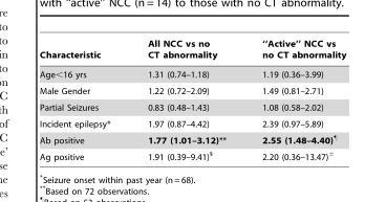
<table><thead><tr><td>Characteristic</td><td>All NCC vs no CT abnormality</td><td>‘‘Active’’ NCC vs no CT abnormality</td></tr></thead><tbody><tr><td>Age&lt;16 yrs</td><td>1.31 (0.74–1.18)</td><td>1.19 (0.36–3.99)</td></tr><tr><td>Male Gender</td><td>1.22 (0.72–2.09)</td><td>1.49 (0.81–2.71)</td></tr><tr><td>Partial Seizures</td><td>0.83 (0.48–1.43)</td><td>1.08 (0.58–2.02)</td></tr><tr><td>Incident epilepsy*</td><td>1.97 (0.87–4.42)</td><td>2.39 (0.97–5.89)</td></tr><tr><td>Ab positive</td><td>1.77 (1.01–3.12)**</td><td>2.55 (1.48–4.40)¶</td></tr><tr><td>Ag positive</td><td>1.91 (0.39–9.41)§</td><td>2.20 (0.36–13.47)±</td></tr></tbody></table>